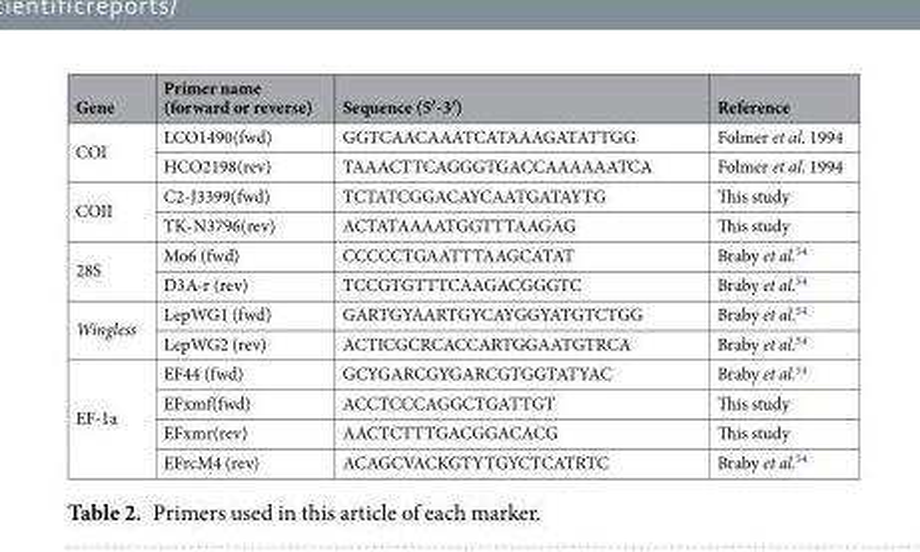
<table><thead><tr><td>Gene</td><td>Primer name (forward or reverse)</td><td>Sequence (5′-3′)</td><td>Reference</td></tr></thead><tbody><tr><td rowspan="2">COI</td><td>LCO1490(fwd)</td><td>GGTCAACAAATCATAAAGATATTGG</td><td>Folmer et al. 1994</td></tr><tr><td>HCO2198(rev)</td><td>TAAACTTCAGGGTGACCAAAAAATCA</td><td>Folmer et al. 1994</td></tr><tr><td rowspan="2">COII</td><td>C2-J3399(fwd)</td><td>TCTATCGGACAYCAATGATAYTG</td><td>This study</td></tr><tr><td>TK-N3796(rev)</td><td>ACTATAAAATGGTTTAAGAG</td><td>This study</td></tr><tr><td rowspan="2">28S</td><td>Mo6 (fwd)</td><td>CCCCCTGAATTTAAGCATAT</td><td>Braby et al.<sup>54</sup></td></tr><tr><td>D3A-r (rev)</td><td>TCCGTGTTTCAAGACGGGTC</td><td>Braby et al.<sup>54</sup></td></tr><tr><td rowspan="2">Wingless</td><td>LepWG1 (fwd)</td><td>GARTGYAARTGYCAYGGYATGTCTGG</td><td>Braby et al.<sup>54</sup></td></tr><tr><td>LepWG2 (rev)</td><td>ACTICGCRCACCARTGGAATGTRCA</td><td>Braby et al.<sup>54</sup></td></tr><tr><td rowspan="4">EF-1a</td><td>EF44 (fwd)</td><td>GCYGARCGYGARCGTGGTATYAC</td><td>Braby et al.<sup>54</sup></td></tr><tr><td>EFxmf(fwd)</td><td>ACCTCCCAGGCTGATTGT</td><td>This study</td></tr><tr><td>EFxmr(rev)</td><td>AACTCTTTGACGGACACG</td><td>This study</td></tr><tr><td>EFrcM4 (rev)</td><td>ACAGCVACKGTYTGYCTCATRTC</td><td>Braby et al.<sup>54</sup></td></tr></tbody></table>